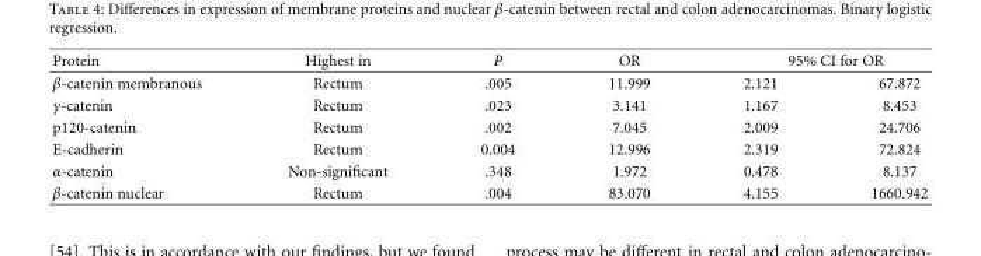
<table><thead><tr><td rowspan="2">Protein β-catenin membranous</td><td rowspan="2">Highest in Rectum</td><td rowspan="2">P .005</td><td rowspan="2">OR 11.999</td><td colspan="2">95% CI for OR</td></tr><tr><td>2.121</td><td>67.872</td></tr></thead><tbody><tr><td>γ-catenin</td><td>Rectum</td><td>.023</td><td>3.141</td><td>1.167</td><td>8.453</td></tr><tr><td>p120-catenin</td><td>Rectum</td><td>.002</td><td>7.045</td><td>2.009</td><td>24.706</td></tr><tr><td>E-cadherin</td><td>Rectum</td><td>0.004</td><td>12.996</td><td>2.319</td><td>72.824</td></tr><tr><td>α-catenin</td><td>Non-significant</td><td>.348</td><td>1.972</td><td>0.478</td><td>8.137</td></tr><tr><td>β-catenin nuclear</td><td>Rectum</td><td>.004</td><td>83.070</td><td>4.155</td><td>1660.942</td></tr></tbody></table>